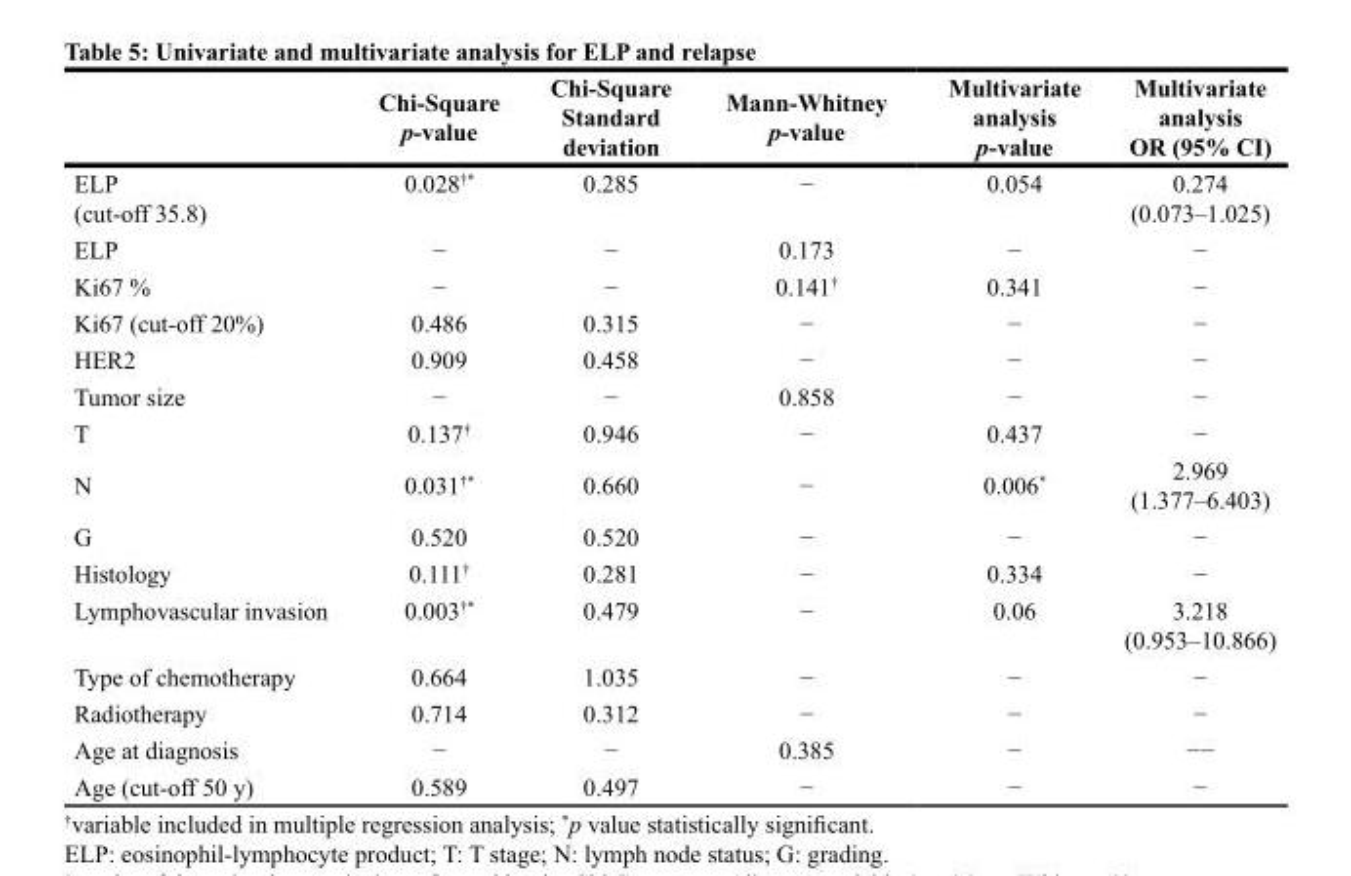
<table><thead><tr><td></td><td>Chi-Square p-value</td><td>Chi-Square Standard deviation</td><td>Mann-Whitney p-value</td><td>Multivariate analysis p-value</td><td>Multivariate analysis OR (95% CI)</td></tr></thead><tbody><tr><td>ELP (cut-off 35.8)</td><td>0.028<sup>†*</sup></td><td>0.285</td><td>−</td><td>0.054</td><td>0.274 (0.073–1.025)</td></tr><tr><td>ELP</td><td>−</td><td>−</td><td>0.173</td><td>−</td><td>−</td></tr><tr><td>Ki67 %</td><td>−</td><td>−</td><td>0.141<sup>†</sup></td><td>0.341</td><td>−</td></tr><tr><td>Ki67 (cut-off 20%)</td><td>0.486</td><td>0.315</td><td>−</td><td>−</td><td>−</td></tr><tr><td>HER2</td><td>0.909</td><td>0.458</td><td>−</td><td>−</td><td>−</td></tr><tr><td>Tumor size</td><td>−</td><td>−</td><td>0.858</td><td>−</td><td>−</td></tr><tr><td>T</td><td>0.137<sup>†</sup></td><td>0.946</td><td>−</td><td>0.437</td><td>−</td></tr><tr><td>N</td><td>0.031<sup>†*</sup></td><td>0.660</td><td>−</td><td>0.006*</td><td>2.969 (1.377–6.403)</td></tr><tr><td>G</td><td>0.520</td><td>0.520</td><td>−</td><td>−</td><td>−</td></tr><tr><td>Histology</td><td>0.111<sup>†</sup></td><td>0.281</td><td>−</td><td>0.334</td><td>−</td></tr><tr><td>Lymphovascular invasion</td><td>0.003<sup>†*</sup></td><td>0.479</td><td>−</td><td>0.06</td><td>3.218 (0.953–10.866)</td></tr><tr><td>Type of chemotherapy</td><td>0.664</td><td>1.035</td><td>−</td><td>−</td><td>−</td></tr><tr><td>Radiotherapy</td><td>0.714</td><td>0.312</td><td>−</td><td>−</td><td>−</td></tr><tr><td>Age at diagnosis</td><td>−</td><td>−</td><td>0.385</td><td>−</td><td>−−</td></tr><tr><td>Age (cut-off 50 y)</td><td>0.589</td><td>0.497</td><td>−</td><td>−</td><td>−</td></tr></tbody></table>